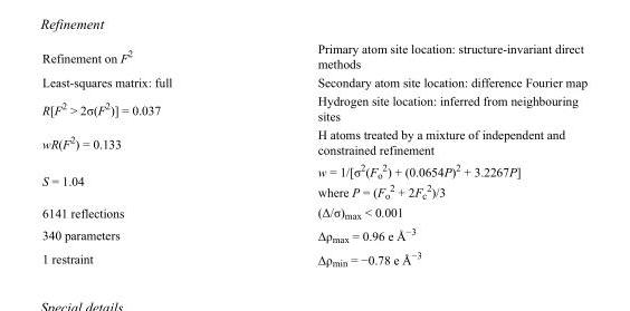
<table><tbody><tr><td>Refinement on F<sup>2</sup></td><td>Primary atom site location: structure-invariant direct methods</td></tr><tr><td>Least-squares matrix: full</td><td>Secondary atom site location: difference Fourier map</td></tr><tr><td>R[F<sup>2</sup> &gt; 2σ(F<sup>2</sup>)] = 0.037</td><td>Hydrogen site location: inferred from neighbouring sites</td></tr><tr><td>wR(F<sup>2</sup>) = 0.133</td><td>H atoms treated by a mixture of independent and constrained refinement</td></tr><tr><td>S = 1.04</td><td>w = 1/[σ<sup>2</sup>(F<sub>o</sub> <sup>2</sup>) + (0.0654P)<sup>2</sup> + 3.2267P] where P = (F<sub>o</sub> <sup>2</sup> + 2F<sub>c</sub> <sup>2</sup>)/3</td></tr><tr><td>6141 reflections</td><td>(Δ/σ)<sub>max</sub> &lt; 0.001</td></tr><tr><td>340 parameters</td><td>Δρ<sub>max</sub> = 0.96 e Å<sup>−3</sup></td></tr><tr><td>1 restraint</td><td>Δρ<sub>min</sub> = −0.78 e Å<sup>−3</sup></td></tr></tbody></table>